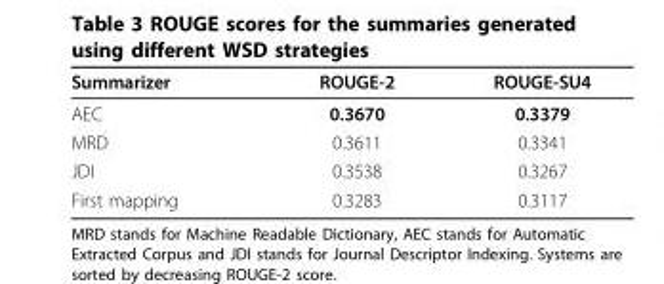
<table><thead><tr><td>Summarizer</td><td>ROUGE-2</td><td>ROUGE-SU4</td></tr></thead><tbody><tr><td>AEC</td><td>0.3670</td><td>0.3379</td></tr><tr><td>MRD</td><td>0.3611</td><td>0.3341</td></tr><tr><td>JDI</td><td>0.3538</td><td>0.3267</td></tr><tr><td>First mapping</td><td>0.3283</td><td>0.3117</td></tr></tbody></table>